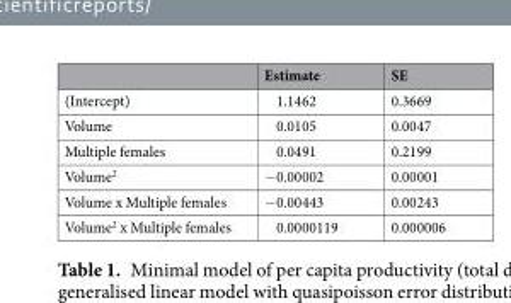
<table><thead><tr><td></td><td>Estimate</td><td>SE</td></tr></thead><tbody><tr><td>(Intercept)</td><td>1.1462</td><td>0.3669</td></tr><tr><td>Volume</td><td>0.0105</td><td>0.0047</td></tr><tr><td>Multiple females</td><td>0.0491</td><td>0.2199</td></tr><tr><td>Volume<sup>2</sup></td><td>−0.00002</td><td>0.00001</td></tr><tr><td>Volume x Multiple females</td><td>−0.00443</td><td>0.00243</td></tr><tr><td>Volume<sup>2</sup> x Multiple females</td><td>0.0000119</td><td>0.000006</td></tr></tbody></table>